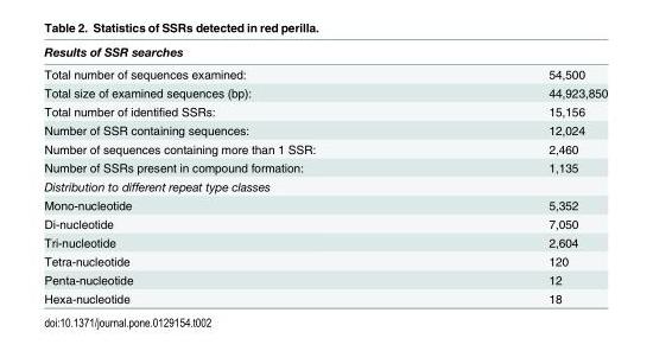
<table><thead><tr><td>Results of SSR searches</td><td></td></tr></thead><tbody><tr><td>Total number of sequences examined:</td><td>54,500</td></tr><tr><td>Total size of examined sequences (bp):</td><td>44,923,850</td></tr><tr><td>Total number of identified SSRs:</td><td>15,156</td></tr><tr><td>Number of SSR containing sequences:</td><td>12,024</td></tr><tr><td>Number of sequences containing more than 1 SSR:</td><td>2,460</td></tr><tr><td>Number of SSRs present in compound formation:</td><td>1,135</td></tr><tr><td colspan="2">Distribution to different repeat type classes</td></tr><tr><td>Mono-nucleotide</td><td>5,352</td></tr><tr><td>Di-nucleotide</td><td>7,050</td></tr><tr><td>Tri-nucleotide</td><td>2,604</td></tr><tr><td>Tetra-nucleotide</td><td>120</td></tr><tr><td>Penta-nucleotide</td><td>12</td></tr><tr><td>Hexa-nucleotide</td><td>18</td></tr></tbody></table>